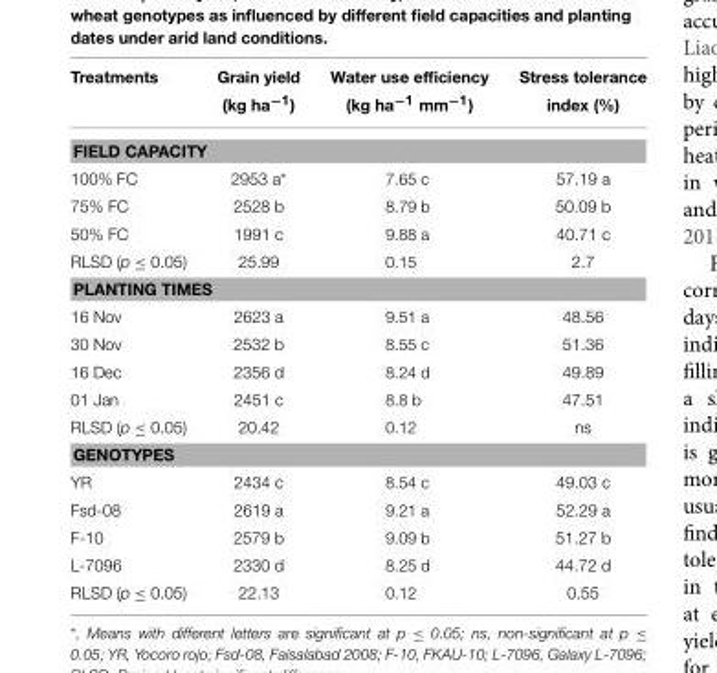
<table><thead><tr><td rowspan="2">Treatments</td><td rowspan="2">Grain yield (kg ha<sup>−1</sup>)</td><td rowspan="2">Water use efficiency (kg ha<sup>−1</sup> mm<sup>−1</sup>)</td><td rowspan="2">Stress tolerance index (%)</td></tr><tr></tr></thead><tbody><tr><td colspan="4">FIELD CAPACITY</td></tr><tr><td>100% FC</td><td>2953 a*</td><td>7.65 c</td><td>57.19 a</td></tr><tr><td>75% FC</td><td>2528 b</td><td>8.79 b</td><td>50.09 b</td></tr><tr><td>50% FC</td><td>1991 c</td><td>9.88 a</td><td>40.71 c</td></tr><tr><td>RLSD (p ≤ 0.05)</td><td>25.99</td><td>0.15</td><td>2.7</td></tr><tr><td colspan="4">PLANTING TIMES</td></tr><tr><td>16 Nov</td><td>2623 a</td><td>9.51 a</td><td>48.56</td></tr><tr><td>30 Nov</td><td>2532 b</td><td>8.55 c</td><td>51.36</td></tr><tr><td>16 Dec</td><td>2356 d</td><td>8.24 d</td><td>49.89</td></tr><tr><td>01 Jan</td><td>2451 c</td><td>8.8 b</td><td>47.51</td></tr><tr><td>RLSD (p ≤ 0.05)</td><td>20.42</td><td>0.12</td><td>ns</td></tr><tr><td colspan="4">GENOTYPES</td></tr><tr><td>YR</td><td>2434 c</td><td>8.54 c</td><td>49.03 c</td></tr><tr><td>Fsd-08</td><td>2619 a</td><td>9.21 a</td><td>52.29 a</td></tr><tr><td>F-10</td><td>2579 b</td><td>9.09 b</td><td>51.27 b</td></tr><tr><td>L-7096</td><td>2330 d</td><td>8.25 d</td><td>44.72 d</td></tr><tr><td>RLSD (p ≤ 0.05)</td><td>22.13</td><td>0.12</td><td>0.55</td></tr></tbody></table>